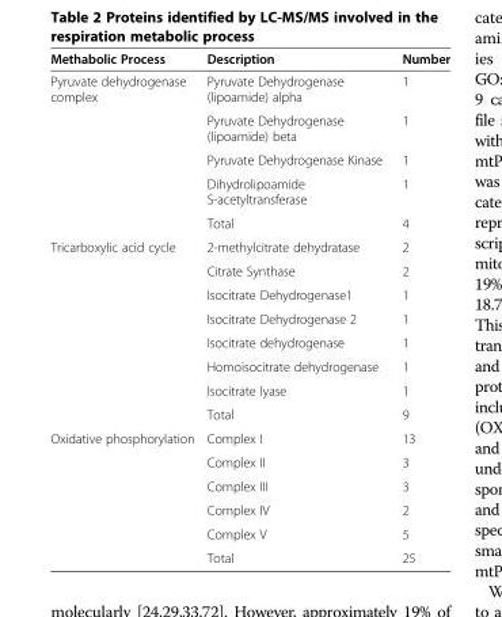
<table><thead><tr><td>Methabolic Process</td><td>Description</td><td>Number</td></tr></thead><tbody><tr><td rowspan="5">Pyruvate dehydrogenase complex</td><td>Pyruvate Dehydrogenase (lipoamide) alpha</td><td>1</td></tr><tr><td>Pyruvate Dehydrogenase (lipoamide) beta</td><td>1</td></tr><tr><td>Pyruvate Dehydrogenase Kinase</td><td>1</td></tr><tr><td>Dihydrolipoamide S-acetyltransferase</td><td>1</td></tr><tr><td>Total</td><td>4</td></tr><tr><td rowspan="8">Tricarboxylic acid cycle</td><td>2-methylcitrate dehydratase</td><td>2</td></tr><tr><td>Citrate Synthase</td><td>2</td></tr><tr><td>Isocitrate Dehydrogenase1</td><td>1</td></tr><tr><td>Isocitrate Dehydrogenase 2</td><td>1</td></tr><tr><td>Isocitrate dehydrogenase</td><td>1</td></tr><tr><td>Homoisocitrate dehydrogenase</td><td>1</td></tr><tr><td>Isocitrate lyase</td><td>1</td></tr><tr><td>Total</td><td>9</td></tr><tr><td rowspan="6">Oxidative phosphorylation</td><td>Complex I</td><td>13</td></tr><tr><td>Complex II</td><td>3</td></tr><tr><td>Complex III</td><td>3</td></tr><tr><td>Complex IV</td><td>2</td></tr><tr><td>Complex V</td><td>5</td></tr><tr><td>Total</td><td>25</td></tr></tbody></table>